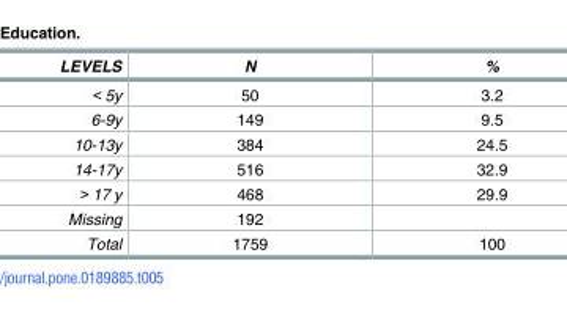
<table><thead><tr><td>LEVELS</td><td>N</td><td>%</td></tr></thead><tbody><tr><td>&lt; 5y</td><td>50</td><td>3.2</td></tr><tr><td>6-9y</td><td>149</td><td>9.5</td></tr><tr><td>10-13y</td><td>384</td><td>24.5</td></tr><tr><td>14-17y</td><td>516</td><td>32.9</td></tr><tr><td>&gt; 17 y</td><td>468</td><td>29.9</td></tr><tr><td>Missing</td><td>192</td><td></td></tr><tr><td>Total</td><td>1759</td><td>100</td></tr></tbody></table>